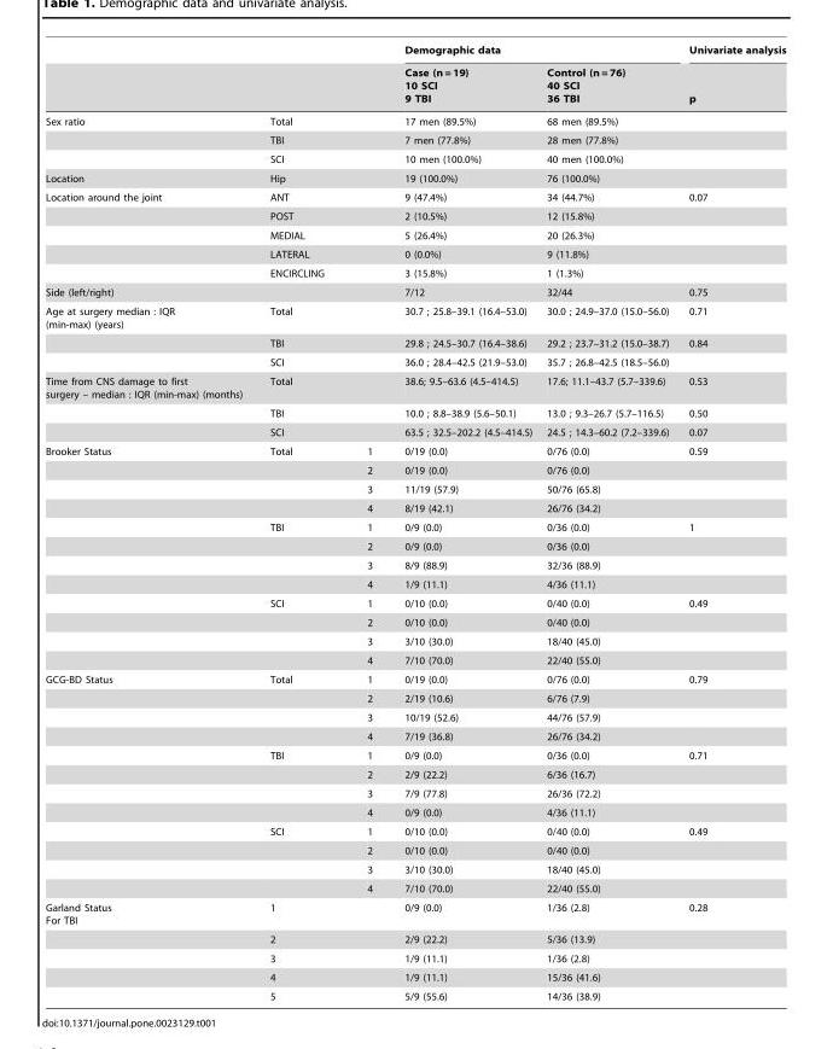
<table><thead><tr><td rowspan="2"></td><td rowspan="2"></td><td rowspan="2"></td><td colspan="2">Demographic data</td><td rowspan="2">Univariate analysis p</td></tr><tr><td>Case (n = 19) 10 SCI 9 TBI</td><td>Control (n = 76) 40 SCI 36 TBI</td></tr></thead><tbody><tr><td rowspan="3">Sex ratio</td><td colspan="2">Total</td><td>17 men (89.5%)</td><td>68 men (89.5%)</td><td></td></tr><tr><td colspan="2">TBI</td><td>7 men (77.8%)</td><td>28 men (77.8%)</td><td></td></tr><tr><td colspan="2">SCI</td><td>10 men (100.0%)</td><td>40 men (100.0%)</td><td></td></tr><tr><td>Location</td><td colspan="2">Hip</td><td>19 (100.0%)</td><td>76 (100.0%)</td><td></td></tr><tr><td rowspan="5">Location around the joint</td><td colspan="2">ANT</td><td>9 (47.4%)</td><td>34 (44.7%)</td><td>0.07</td></tr><tr><td colspan="2">POST</td><td>2 (10.5%)</td><td>12 (15.8%)</td><td></td></tr><tr><td colspan="2">MEDIAL</td><td>5 (26.4%)</td><td>20 (26.3%)</td><td></td></tr><tr><td colspan="2">LATERAL</td><td>0 (0.0%)</td><td>9 (11.8%)</td><td></td></tr><tr><td colspan="2">ENCIRCLING</td><td>3 (15.8%)</td><td>1 (1.3%)</td><td></td></tr><tr><td colspan="3">Side (left/right)</td><td>7/12</td><td>32/44</td><td>0.75</td></tr><tr><td rowspan="3">Age at surgery median : IQR (min-max) (years)</td><td colspan="2">Total</td><td>30.7 ; 25.8–39.1 (16.4–53.0)</td><td>30.0 ; 24.9–37.0 (15.0–56.0)</td><td>0.71</td></tr><tr><td colspan="2">TBI</td><td>29.8 ; 24.5–30.7 (16.4–38.6)</td><td>29.2 ; 23.7–31.2 (15.0–38.7)</td><td>0.84</td></tr><tr><td colspan="2">SCI</td><td>36.0 ; 28.4–42.5 (21.9–53.0)</td><td>35.7 ; 26.8–42.5 (18.5–56.0)</td><td></td></tr><tr><td rowspan="3">Time from CNS damage to first surgery – median : IQR (min-max) (months)</td><td colspan="2">Total</td><td>38.6; 9.5–63.6 (4.5–414.5)</td><td>17.6; 11.1–43.7 (5.7–339.6)</td><td>0.53</td></tr><tr><td colspan="2">TBI</td><td>10.0 ; 8.8–38.9 (5.6–50.1)</td><td>13.0 ; 9.3–26.7 (5.7–116.5)</td><td>0.50</td></tr><tr><td colspan="2">SCI</td><td>63.5 ; 32.5–202.2 (4.5–414.5)</td><td>24.5 ; 14.3–60.2 (7.2–339.6)</td><td>0.07</td></tr><tr><td rowspan="12">Brooker Status</td><td>Total</td><td>1</td><td>0/19 (0.0)</td><td>0/76 (0.0)</td><td>0.59</td></tr><tr><td></td><td>2</td><td>0/19 (0.0)</td><td>0/76 (0.0)</td><td></td></tr><tr><td></td><td>3</td><td>11/19 (57.9)</td><td>50/76 (65.8)</td><td></td></tr><tr><td></td><td>4</td><td>8/19 (42.1)</td><td>26/76 (34.2)</td><td></td></tr><tr><td>TBI</td><td>1</td><td>0/9 (0.0)</td><td>0/36 (0.0)</td><td>1</td></tr><tr><td></td><td>2</td><td>0/9 (0.0)</td><td>0/36 (0.0)</td><td></td></tr><tr><td></td><td>3</td><td>8/9 (88.9)</td><td>32/36 (88.9)</td><td></td></tr><tr><td></td><td>4</td><td>1/9 (11.1)</td><td>4/36 (11.1)</td><td></td></tr><tr><td>SCI</td><td>1</td><td>0/10 (0.0)</td><td>0/40 (0.0)</td><td>0.49</td></tr><tr><td></td><td>2</td><td>0/10 (0.0)</td><td>0/40 (0.0)</td><td></td></tr><tr><td></td><td>3</td><td>3/10 (30.0)</td><td>18/40 (45.0)</td><td></td></tr><tr><td></td><td>4</td><td>7/10 (70.0)</td><td>22/40 (55.0)</td><td></td></tr><tr><td rowspan="12">GCG-BD Status</td><td>Total</td><td>1</td><td>0/19 (0.0)</td><td>0/76 (0.0)</td><td>0.79</td></tr><tr><td></td><td>2</td><td>2/19 (10.6)</td><td>6/76 (7.9)</td><td></td></tr><tr><td></td><td>3</td><td>10/19 (52.6)</td><td>44/76 (57.9)</td><td></td></tr><tr><td></td><td>4</td><td>7/19 (36.8)</td><td>26/76 (34.2)</td><td></td></tr><tr><td>TBI</td><td>1</td><td>0/9 (0.0)</td><td>0/36 (0.0)</td><td>0.71</td></tr><tr><td></td><td>2</td><td>2/9 (22.2)</td><td>6/36 (16.7)</td><td></td></tr><tr><td></td><td>3</td><td>7/9 (77.8)</td><td>26/36 (72.2)</td><td></td></tr><tr><td></td><td>4</td><td>0/9 (0.0)</td><td>4/36 (11.1)</td><td></td></tr><tr><td>SCI</td><td>1</td><td>0/10 (0.0)</td><td>0/40 (0.0)</td><td>0.49</td></tr><tr><td></td><td>2</td><td>0/10 (0.0)</td><td>0/40 (0.0)</td><td></td></tr><tr><td></td><td>3</td><td>3/10 (30.0)</td><td>18/40 (45.0)</td><td></td></tr><tr><td></td><td>4</td><td>7/10 (70.0)</td><td>22/40 (55.0)</td><td></td></tr><tr><td rowspan="5">Garland Status For TBI</td><td colspan="2">1</td><td>0/9 (0.0)</td><td>1/36 (2.8)</td><td>0.28</td></tr><tr><td colspan="2">2</td><td>2/9 (22.2)</td><td>5/36 (13.9)</td><td></td></tr><tr><td colspan="2">3</td><td>1/9 (11.1)</td><td>1/36 (2.8)</td><td></td></tr><tr><td colspan="2">4</td><td>1/9 (11.1)</td><td>15/36 (41.6)</td><td></td></tr><tr><td colspan="2">5</td><td>5/9 (55.6)</td><td>14/36 (38.9)</td><td></td></tr></tbody></table>